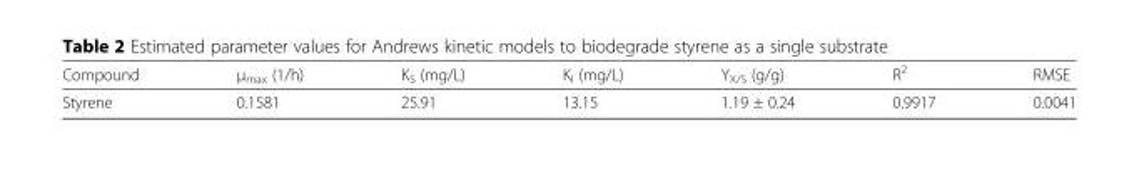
<table><thead><tr><td>Compound</td><td>μ<sub>max</sub> (1/h)</td><td>K<sub>S</sub> (mg/L)</td><td>K<sub>I</sub> (mg/L)</td><td>Y<sub>X/S</sub> (g/g)</td><td>R<sup>2</sup></td><td>RMSE</td></tr></thead><tbody><tr><td>Styrene</td><td>0.1581</td><td>25.91</td><td>13.15</td><td>1.19 ± 0.24</td><td>0.9917</td><td>0.0041</td></tr></tbody></table>